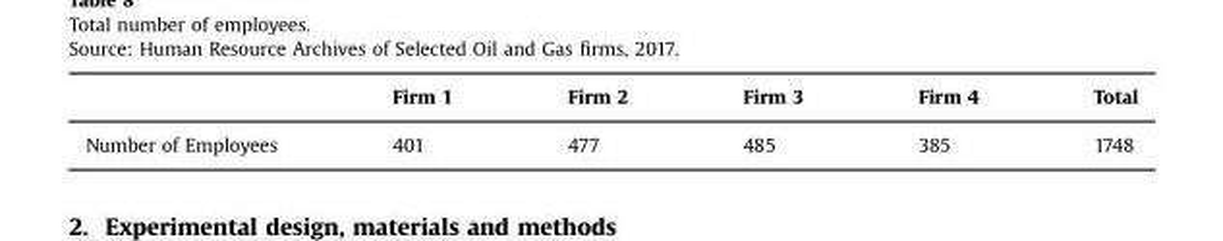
<table><thead><tr><td></td><td>Firm 1</td><td>Firm 2</td><td>Firm 3</td><td>Firm 4</td><td>Total</td></tr></thead><tbody><tr><td>Number of Employees</td><td>401</td><td>477</td><td>485</td><td>385</td><td>1748</td></tr></tbody></table>